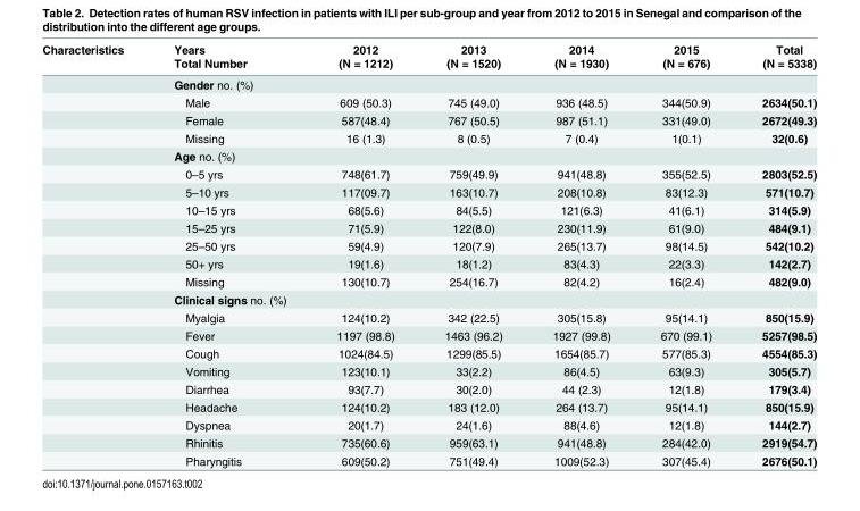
<table><thead><tr><td rowspan="2">Characteristics</td><td rowspan="2">Years Total Number</td><td rowspan="2">2012 (N = 1212)</td><td rowspan="2">2013 (N = 1520)</td><td rowspan="2">2014 (N = 1930)</td><td rowspan="2">2015 (N = 676)</td><td rowspan="2">Total (N = 5338)</td></tr><tr></tr></thead><tbody><tr><td></td><td>Gender no. (%)</td><td></td><td></td><td></td><td></td><td></td></tr><tr><td></td><td>Male</td><td>609 (50.3)</td><td>745 (49.0)</td><td>936 (48.5)</td><td>344(50.9)</td><td>2634(50.1)</td></tr><tr><td></td><td>Female</td><td>587(48.4)</td><td>767 (50.5)</td><td>987 (51.1)</td><td>331(49.0)</td><td>2672(49.3)</td></tr><tr><td></td><td>Missing</td><td>16 (1.3)</td><td>8 (0.5)</td><td>7 (0.4)</td><td>1(0.1)</td><td>32(0.6)</td></tr><tr><td></td><td>Age no. (%)</td><td></td><td></td><td></td><td></td><td></td></tr><tr><td></td><td>0–5 yrs</td><td>748(61.7)</td><td>759(49.9)</td><td>941(48.8)</td><td>355(52.5)</td><td>2803(52.5)</td></tr><tr><td></td><td>5–10 yrs</td><td>117(09.7)</td><td>163(10.7)</td><td>208(10.8)</td><td>83(12.3)</td><td>571(10.7)</td></tr><tr><td></td><td>10–15 yrs</td><td>68(5.6)</td><td>84(5.5)</td><td>121(6.3)</td><td>41(6.1)</td><td>314(5.9)</td></tr><tr><td></td><td>15–25 yrs</td><td>71(5.9)</td><td>122(8.0)</td><td>230(11.9)</td><td>61(9.0)</td><td>484(9.1)</td></tr><tr><td></td><td>25–50 yrs</td><td>59(4.9)</td><td>120(7.9)</td><td>265(13.7)</td><td>98(14.5)</td><td>542(10.2)</td></tr><tr><td></td><td>50+ yrs</td><td>19(1.6)</td><td>18(1.2)</td><td>83(4.3)</td><td>22(3.3)</td><td>142(2.7)</td></tr><tr><td></td><td>Missing</td><td>130(10.7)</td><td>254(16.7)</td><td>82(4.2)</td><td>16(2.4)</td><td>482(9.0)</td></tr><tr><td></td><td>Clinical signs no. (%)</td><td></td><td></td><td></td><td></td><td></td></tr><tr><td></td><td>Myalgia</td><td>124(10.2)</td><td>342 (22.5)</td><td>305(15.8)</td><td>95(14.1)</td><td>850(15.9)</td></tr><tr><td></td><td>Fever</td><td>1197 (98.8)</td><td>1463 (96.2)</td><td>1927 (99.8)</td><td>670 (99.1)</td><td>5257(98.5)</td></tr><tr><td></td><td>Cough</td><td>1024(84.5)</td><td>1299(85.5)</td><td>1654(85.7)</td><td>577(85.3)</td><td>4554(85.3)</td></tr><tr><td></td><td>Vomiting</td><td>123(10.1)</td><td>33(2.2)</td><td>86(4.5)</td><td>63(9.3)</td><td>305(5.7)</td></tr><tr><td></td><td>Diarrhea</td><td>93(7.7)</td><td>30(2.0)</td><td>44 (2.3)</td><td>12(1.8)</td><td>179(3.4)</td></tr><tr><td></td><td>Headache</td><td>124(10.2)</td><td>183 (12.0)</td><td>264 (13.7)</td><td>95(14.1)</td><td>850(15.9)</td></tr><tr><td></td><td>Dyspnea</td><td>20(1.7)</td><td>24(1.6)</td><td>88(4.6)</td><td>12(1.8)</td><td>144(2.7)</td></tr><tr><td></td><td>Rhinitis</td><td>735(60.6)</td><td>959(63.1)</td><td>941(48.8)</td><td>284(42.0)</td><td>2919(54.7)</td></tr><tr><td></td><td>Pharyngitis</td><td>609(50.2)</td><td>751(49.4)</td><td>1009(52.3)</td><td>307(45.4)</td><td>2676(50.1)</td></tr></tbody></table>